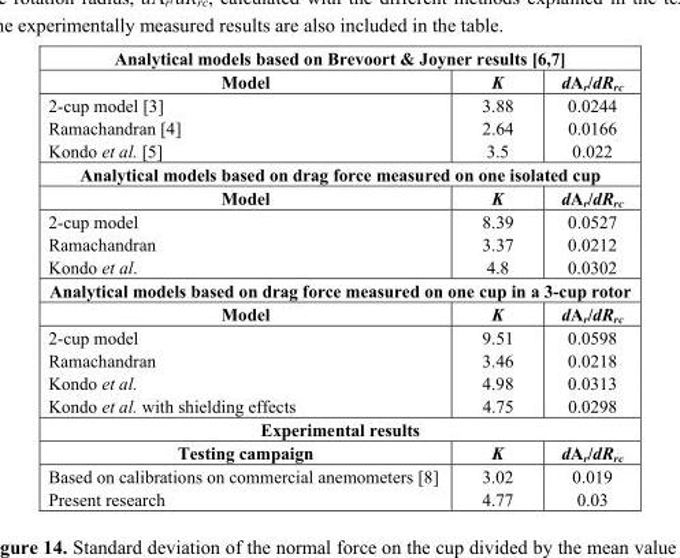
<table><thead><tr><td colspan="3">Analytical models based on Brevoort &amp; Joyner results [6,7]</td></tr><tr><td>Model</td><td>K</td><td>dA<sub>r</sub>/dR<sub>rc</sub></td></tr></thead><tbody><tr><td>2-cup model [3]</td><td>3.88</td><td>0.0244</td></tr><tr><td>Ramachandran [4]</td><td>2.64</td><td>0.0166</td></tr><tr><td>Kondo et al. [5]</td><td>3.5</td><td>0.022</td></tr><tr><td colspan="3">Analytical models based on drag force measured on one isolated cup</td></tr><tr><td>Model</td><td>K</td><td>dA<sub>r</sub>/dR<sub>rc</sub></td></tr><tr><td>2-cup model</td><td>8.39</td><td>0.0527</td></tr><tr><td>Ramachandran</td><td>3.37</td><td>0.0212</td></tr><tr><td>Kondo et al.</td><td>4.8</td><td>0.0302</td></tr><tr><td colspan="3">Analytical models based on drag force measured on one cup in a 3-cup rotor</td></tr><tr><td>Model</td><td>K</td><td>dA<sub>r</sub>/dR<sub>rc</sub></td></tr><tr><td>2-cup model</td><td>9.51</td><td>0.0598</td></tr><tr><td>Ramachandran</td><td>3.46</td><td>0.0218</td></tr><tr><td>Kondo et al.</td><td>4.98</td><td>0.0313</td></tr><tr><td>Kondo et al. with shielding effects</td><td>4.75</td><td>0.0298</td></tr><tr><td colspan="3">Experimental results</td></tr><tr><td>Testing campaign</td><td>K</td><td>dA<sub>r</sub>/dR<sub>rc</sub></td></tr><tr><td>Based on calibrations on commercial anemometers [8]</td><td>3.02</td><td>0.019</td></tr><tr><td>Present research</td><td>4.77</td><td>0.03</td></tr></tbody></table>